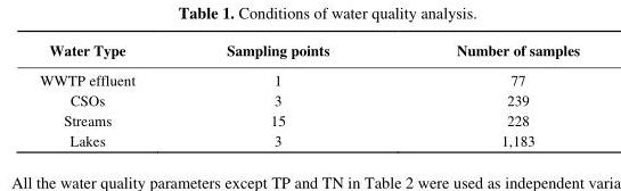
<table><thead><tr><td>Water Type</td><td>Sampling points</td><td>Number of samples</td></tr></thead><tbody><tr><td>WWTP effluent</td><td>1</td><td>77</td></tr><tr><td>CSOs</td><td>3</td><td>239</td></tr><tr><td>Streams</td><td>15</td><td>228</td></tr><tr><td>Lakes</td><td>3</td><td>1,183</td></tr></tbody></table>